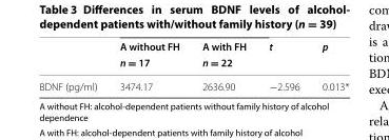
<table><thead><tr><td rowspan="2"></td><td rowspan="2">A without FH n = 17</td><td rowspan="2">A with FH n = 22</td><td rowspan="2">t</td><td rowspan="2">p</td></tr><tr></tr></thead><tbody><tr><td>BDNF (pg/ml)</td><td>3474.17</td><td>2636.90</td><td>−2.596</td><td>0.013*</td></tr></tbody></table>